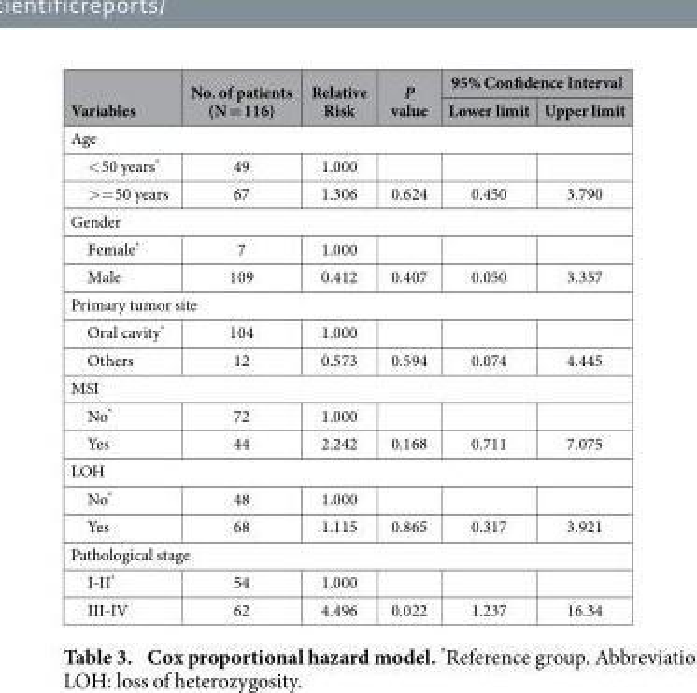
<table><thead><tr><td rowspan="2">Variables</td><td rowspan="2">No. of patients (N = 116)</td><td rowspan="2">Relative Risk</td><td rowspan="2">P value</td><td colspan="2">95% Confidence Interval</td></tr><tr><td>Lower limit</td><td>Upper limit</td></tr></thead><tbody><tr><td colspan="6">Age</td></tr><tr><td>&lt; 50 years*</td><td>49</td><td>1.000</td><td></td><td></td><td></td></tr><tr><td>&gt; = 50 years</td><td>67</td><td>1.306</td><td>0.624</td><td>0.450</td><td>3.790</td></tr><tr><td colspan="6">Gender</td></tr><tr><td>Female*</td><td>7</td><td>1.000</td><td></td><td></td><td></td></tr><tr><td>Male</td><td>109</td><td>0.412</td><td>0.407</td><td>0.050</td><td>3.357</td></tr><tr><td colspan="6">Primary tumor site</td></tr><tr><td>Oral cavity*</td><td>104</td><td>1.000</td><td></td><td></td><td></td></tr><tr><td>Others</td><td>12</td><td>0.573</td><td>0.594</td><td>0.074</td><td>4.445</td></tr><tr><td colspan="6">MSI</td></tr><tr><td>No*</td><td>72</td><td>1.000</td><td></td><td></td><td></td></tr><tr><td>Yes</td><td>44</td><td>2.242</td><td>0.168</td><td>0.711</td><td>7.075</td></tr><tr><td colspan="6">LOH</td></tr><tr><td>No*</td><td>48</td><td>1.000</td><td></td><td></td><td></td></tr><tr><td>Yes</td><td>68</td><td>1.115</td><td>0.865</td><td>0.317</td><td>3.921</td></tr><tr><td colspan="6">Pathological stage</td></tr><tr><td>I-II*</td><td>54</td><td>1.000</td><td></td><td></td><td></td></tr><tr><td>III-IV</td><td>62</td><td>4.496</td><td>0.022</td><td>1.237</td><td>16.34</td></tr></tbody></table>